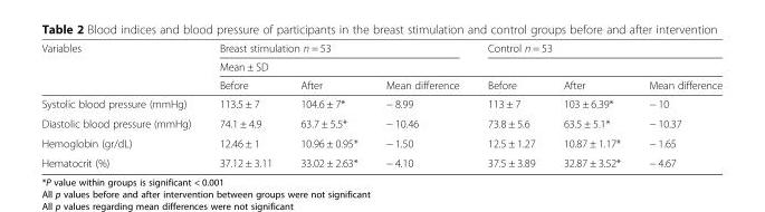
<table><thead><tr><td rowspan="3">Variables</td><td colspan="3">Breast stimulation n = 53</td><td colspan="3">Control n = 53</td></tr><tr><td colspan="6">Mean ± SD</td></tr><tr><td>Before</td><td>After</td><td>Mean difference</td><td>Before</td><td>After</td><td>Mean difference</td></tr></thead><tbody><tr><td>Systolic blood pressure (mmHg)</td><td>113.5 ± 7</td><td>104.6 ± 7*</td><td>− 8.99</td><td>113 ± 7</td><td>103 ± 6.39*</td><td>− 10</td></tr><tr><td>Diastolic blood pressure (mmHg)</td><td>74.1 ± 4.9</td><td>63.7 ± 5.5*</td><td>− 10.46</td><td>73.8 ± 5.6</td><td>63.5 ± 5.1*</td><td>− 10.37</td></tr><tr><td>Hemoglobin (gr/dL)</td><td>12.46 ± 1</td><td>10.96 ± 0.95*</td><td>− 1.50</td><td>12.5 ± 1.27</td><td>10.87 ± 1.17*</td><td>− 1.65</td></tr><tr><td>Hematocrit (%)</td><td>37.12 ± 3.11</td><td>33.02 ± 2.63*</td><td>− 4.10</td><td>37.5 ± 3.89</td><td>32.87 ± 3.52*</td><td>− 4.67</td></tr></tbody></table>